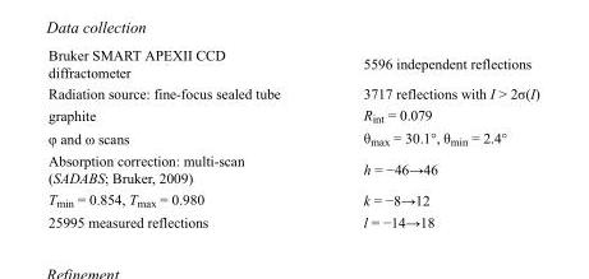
<table><tbody><tr><td>Bruker SMART APEXII CCD diffractometer</td><td>5596 independent reflections</td></tr><tr><td>Radiation source: fine-focus sealed tube</td><td>3717 reflections with I &gt; 2σ(I)</td></tr><tr><td>graphite</td><td>R<sub>int</sub> = 0.079</td></tr><tr><td>φ and ω scans</td><td>θ<sub>max</sub> = 30.1°, θ<sub>min</sub> = 2.4°</td></tr><tr><td>Absorption correction: multi-scan (SADABS; Bruker, 2009)</td><td>h = −46→46</td></tr><tr><td>T<sub>min</sub> = 0.854, T<sub>max</sub> = 0.980</td><td>k = −8→12</td></tr><tr><td>25995 measured reflections</td><td>l = −14→18</td></tr></tbody></table>